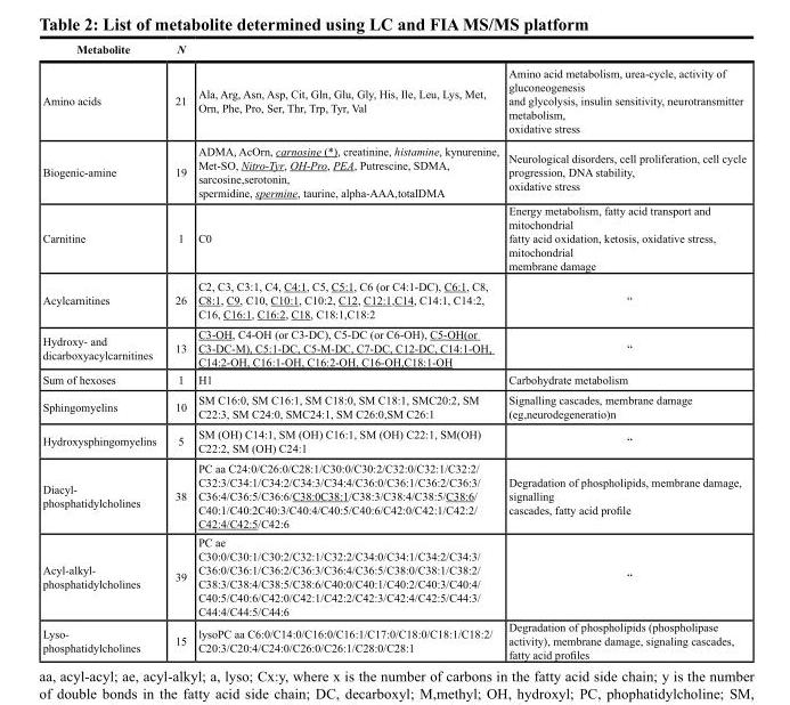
<table><thead><tr><td>Metabolite</td><td>N</td><td></td><td></td></tr></thead><tbody><tr><td>Amino acids</td><td>21</td><td>Ala, Arg, Asn, Asp, Cit, Gln, Glu, Gly, His, Ile, Leu, Lys, Met, Orn, Phe, Pro, Ser, Thr, Trp, Tyr, Val</td><td>Amino acid metabolism, urea-cycle, activity of gluconeogenesis and glycolysis, insulin sensitivity, neurotransmitter metabolism, oxidative stress</td></tr><tr><td>Biogenic-amine</td><td>19</td><td>ADMA, AcOrn, carnosine (*), creatinine, histamine, kynurenine, Met-SO, Nitro-Tyr, OH-Pro, PEA, Putrescine, SDMA, sarcosine,serotonin, spermidine, spermine, taurine, alpha-AAA,totalDMA</td><td>Neurological disorders, cell proliferation, cell cycle progression, DNA stability, oxidative stress</td></tr><tr><td>Carnitine</td><td>1</td><td>C0</td><td>Energy metabolism, fatty acid transport and mitochondrial fatty acid oxidation, ketosis, oxidative stress, mitochondrial membrane damage</td></tr><tr><td>Acylcarnitines</td><td>26</td><td>C2, C3, C3:1, C4, C4:1, C5, C5:1, C6 (or C4:1-DC), C6:1, C8, C8:1, C9, C10, C10:1, C10:2, C12, C12:1,C14, C14:1, C14:2, C16, C16:1, C16:2, C18, C18:1,C18:2</td><td>“</td></tr><tr><td>Hydroxy- and dicarboxyacylcarnitines</td><td>13</td><td>C3-OH, C4-OH (or C3-DC), C5-DC (or C6-OH), C5-OH(or C3-DC-M), C5:1-DC, C5-M-DC, C7-DC, C12-DC, C14:1-OH, C14:2-OH, C16:1-OH, C16:2-OH, C16-OH,C18:1-OH</td><td>“</td></tr><tr><td>Sum of hexoses</td><td>1</td><td>H1</td><td>Carbohydrate metabolism</td></tr><tr><td>Sphingomyelins</td><td>10</td><td>SM C16:0, SM C16:1, SM C18:0, SM C18:1, SMC20:2, SM C22:3, SM C24:0, SMC24:1, SM C26:0,SM C26:1</td><td>Signalling cascades, membrane damage (eg,neurodegeneratio)n</td></tr><tr><td>Hydroxysphingomyelins</td><td>5</td><td>SM (OH) C14:1, SM (OH) C16:1, SM (OH) C22:1, SM(OH) C22:2, SM (OH) C24:1</td><td>“</td></tr><tr><td>Diacyl- phosphatidylcholines</td><td>38</td><td>PC aa C24:0/C26:0/C28:1/C30:0/C30:2/C32:0/C32:1/C32:2/ C32:3/C34:1/C34:2/C34:3/C34:4/C36:0/C36:1/C36:2/C36:3/ C36:4/C36:5/C36:6/C38:0C38:1/C38:3/C38:4/C38:5/C38:6/ C40:1/C40:2C40:3/C40:4/C40:5/C40:6/C42:0/C42:1/C42:2/ C42:4/C42:5/C42:6</td><td>Degradation of phospholipids, membrane damage, signalling cascades, fatty acid profile</td></tr><tr><td>Acyl-alkyl- phosphatidylcholines</td><td>39</td><td>PC ae C30:0/C30:1/C30:2/C32:1/C32:2/C34:0/C34:1/C34:2/C34:3/ C36:0/C36:1/C36:2/C36:3/C36:4/C36:5/C38:0/C38:1/C38:2/ C38:3/C38:4/C38:5/C38:6/C40:0/C40:1/C40:2/C40:3/C40:4/ C40:5/C40:6/C42:0/C42:1/C42:2/C42:3/C42:4/C42:5/C44:3/ C44:4/C44:5/C44:6</td><td>“</td></tr><tr><td>Lyso- phosphatidylcholines</td><td>15</td><td>lysoPC aa C6:0/C14:0/C16:0/C16:1/C17:0/C18:0/C18:1/C18:2/ C20:3/C20:4/C24:0/C26:0/C26:1/C28:0/C28:1</td><td>Degradation of phospholipids (phospholipase activity), membrane damage, signaling cascades, fatty acid profiles</td></tr></tbody></table>